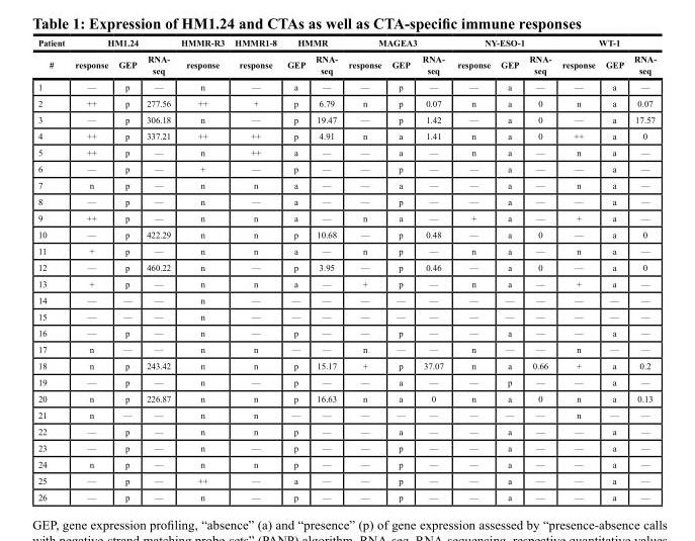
<table><thead><tr><td rowspan="2">Patient #</td><td colspan="3">HM1.24</td><td rowspan="2">HMMR-R3 response</td><td rowspan="2">HMMR1-8 response</td><td colspan="2">HMMR</td><td colspan="3">MAGEA3</td><td colspan="3">NY-ESO-1</td><td colspan="3">WT-1</td></tr><tr><td>response</td><td>GEP</td><td>RNA- seq</td><td>GEP</td><td>RNA- seq</td><td>response</td><td>GEP</td><td>RNA- seq</td><td>response</td><td>GEP</td><td>RNA- seq</td><td>response</td><td>GEP</td><td>RNA- seq</td></tr></thead><tbody><tr><td>1</td><td>—</td><td>p</td><td>—</td><td>n</td><td>—</td><td>a</td><td>—</td><td>—</td><td>p</td><td>—</td><td>—</td><td>a</td><td>—</td><td>—</td><td>a</td><td>—</td></tr><tr><td>2</td><td>++</td><td>p</td><td>277.56</td><td>++</td><td>+</td><td>p</td><td>6.79</td><td>n</td><td>p</td><td>0.07</td><td>n</td><td>a</td><td>0</td><td>n</td><td>a</td><td>0.07</td></tr><tr><td>3</td><td>—</td><td>p</td><td>306.18</td><td>n</td><td>—</td><td>p</td><td>19.47</td><td>—</td><td>p</td><td>1.42</td><td>—</td><td>a</td><td>0</td><td>—</td><td>a</td><td>17.57</td></tr><tr><td>4</td><td>++</td><td>p</td><td>337.21</td><td>++</td><td>++</td><td>p</td><td>4.91</td><td>n</td><td>a</td><td>1.41</td><td>n</td><td>a</td><td>0</td><td>++</td><td>a</td><td>0</td></tr><tr><td>5</td><td>++</td><td>p</td><td>—</td><td>n</td><td>++</td><td>a</td><td>—</td><td>—</td><td>a</td><td>—</td><td>n</td><td>a</td><td>—</td><td>n</td><td>a</td><td>—</td></tr><tr><td>6</td><td>—</td><td>p</td><td>—</td><td>+</td><td>—</td><td>p</td><td>—</td><td>—</td><td>p</td><td>—</td><td>—</td><td>a</td><td>—</td><td>—</td><td>a</td><td>—</td></tr><tr><td>7</td><td>n</td><td>p</td><td>—</td><td>n</td><td>n</td><td>a</td><td>—</td><td>—</td><td>a</td><td>—</td><td>—</td><td>a</td><td>—</td><td>n</td><td>a</td><td>—</td></tr><tr><td>8</td><td>—</td><td>p</td><td>—</td><td>n</td><td>—</td><td>a</td><td>—</td><td>—</td><td>p</td><td>—</td><td>—</td><td>a</td><td>—</td><td>—</td><td>a</td><td>—</td></tr><tr><td>9</td><td>++</td><td>p</td><td>—</td><td>n</td><td>n</td><td>a</td><td>—</td><td>n</td><td>a</td><td>—</td><td>+</td><td>a</td><td>—</td><td>+</td><td>a</td><td>—</td></tr><tr><td>10</td><td>—</td><td>p</td><td>422.29</td><td>n</td><td>n</td><td>p</td><td>10.68</td><td>—</td><td>p</td><td>0.48</td><td>—</td><td>a</td><td>0</td><td>—</td><td>a</td><td>0</td></tr><tr><td>11</td><td>+</td><td>p</td><td>—</td><td>n</td><td>n</td><td>a</td><td>—</td><td>n</td><td>p</td><td>—</td><td>n</td><td>a</td><td>—</td><td>n</td><td>a</td><td>—</td></tr><tr><td>12</td><td>—</td><td>p</td><td>460.22</td><td>n</td><td>—</td><td>p</td><td>3.95</td><td>—</td><td>p</td><td>0.46</td><td>—</td><td>a</td><td>0</td><td>—</td><td>a</td><td>0</td></tr><tr><td>13</td><td>+</td><td>p</td><td>—</td><td>n</td><td>n</td><td>a</td><td>—</td><td>+</td><td>p</td><td>—</td><td>n</td><td>a</td><td>—</td><td>+</td><td>a</td><td>—</td></tr><tr><td>14</td><td>—</td><td>—</td><td>—</td><td>n</td><td>—</td><td>—</td><td>—</td><td>—</td><td>—</td><td>—</td><td>—</td><td>—</td><td>—</td><td>—</td><td>—</td><td>—</td></tr><tr><td>15</td><td>—</td><td>—</td><td>—</td><td>n</td><td>—</td><td>—</td><td>—</td><td>—</td><td>—</td><td>—</td><td>—</td><td>—</td><td>—</td><td>—</td><td>—</td><td>—</td></tr><tr><td>16</td><td>—</td><td>p</td><td>—</td><td>n</td><td>—</td><td>p</td><td>—</td><td>—</td><td>p</td><td>—</td><td>—</td><td>a</td><td>—</td><td>—</td><td>a</td><td>—</td></tr><tr><td>17</td><td>n</td><td>—</td><td>—</td><td>n</td><td>n</td><td>—</td><td>—</td><td>n</td><td>—</td><td>—</td><td>n</td><td>—</td><td>—</td><td>n</td><td>—</td><td>—</td></tr><tr><td>18</td><td>n</td><td>p</td><td>243.42</td><td>n</td><td>n</td><td>p</td><td>15.17</td><td>+</td><td>p</td><td>37.07</td><td>n</td><td>a</td><td>0.66</td><td>+</td><td>a</td><td>0.2</td></tr><tr><td>19</td><td>—</td><td>p</td><td>—</td><td>n</td><td>—</td><td>p</td><td>—</td><td>—</td><td>a</td><td>—</td><td>—</td><td>p</td><td>—</td><td>—</td><td>a</td><td>—</td></tr><tr><td>20</td><td>n</td><td>p</td><td>226.87</td><td>n</td><td>n</td><td>p</td><td>16.63</td><td>n</td><td>a</td><td>0</td><td>n</td><td>a</td><td>0</td><td>n</td><td>a</td><td>0.13</td></tr><tr><td>21</td><td>n</td><td>—</td><td>—</td><td>n</td><td>n</td><td>—</td><td>—</td><td>—</td><td>—</td><td>—</td><td>—</td><td>—</td><td>—</td><td>n</td><td>—</td><td>—</td></tr><tr><td>22</td><td>—</td><td>p</td><td>—</td><td>n</td><td>n</td><td>p</td><td>—</td><td>—</td><td>a</td><td>—</td><td>—</td><td>a</td><td>—</td><td>—</td><td>a</td><td>—</td></tr><tr><td>23</td><td>—</td><td>p</td><td>—</td><td>n</td><td>—</td><td>p</td><td>—</td><td>—</td><td>p</td><td>—</td><td>—</td><td>a</td><td>—</td><td>—</td><td>a</td><td>—</td></tr><tr><td>24</td><td>n</td><td>p</td><td>—</td><td>n</td><td>n</td><td>p</td><td>—</td><td>—</td><td>p</td><td>—</td><td>—</td><td>a</td><td>—</td><td>—</td><td>a</td><td>—</td></tr><tr><td>25</td><td>—</td><td>p</td><td>—</td><td>++</td><td>—</td><td>a</td><td>—</td><td>—</td><td>p</td><td>—</td><td>—</td><td>a</td><td>—</td><td>—</td><td>a</td><td>—</td></tr><tr><td>26</td><td>—</td><td>p</td><td>—</td><td>n</td><td>—</td><td>p</td><td>—</td><td>—</td><td>p</td><td>—</td><td>—</td><td>a</td><td>—</td><td>—</td><td>a</td><td>—</td></tr></tbody></table>